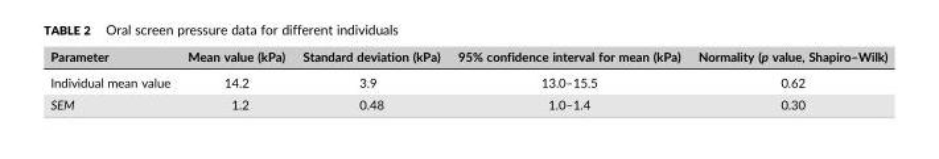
<table><thead><tr><td>Parameter</td><td>Mean value (kPa)</td><td>Standard deviation (kPa)</td><td>95% confidence interval for mean (kPa)</td><td>Normality (p value, Shapiro–Wilk)</td></tr></thead><tbody><tr><td>Individual mean value</td><td>14.2</td><td>3.9</td><td>13.0–15.5</td><td>0.62</td></tr><tr><td>SEM</td><td>1.2</td><td>0.48</td><td>1.0–1.4</td><td>0.30</td></tr></tbody></table>